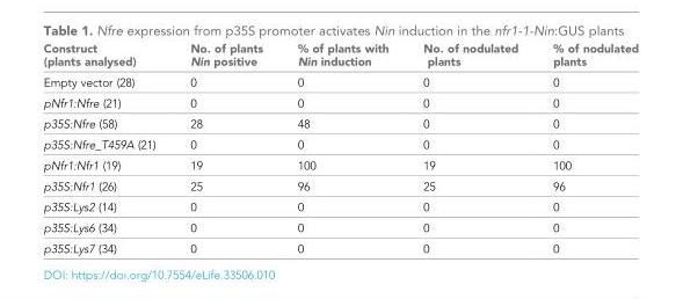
<table><thead><tr><td>Construct (plants analysed)</td><td>No. of plants Nin positive</td><td>% of plants with Nin induction</td><td>No. of nodulated plants</td><td>% of nodulated plants</td></tr></thead><tbody><tr><td>Empty vector (28)</td><td>0</td><td>0</td><td>0</td><td>0</td></tr><tr><td>pNfr1:Nfre (21)</td><td>0</td><td>0</td><td>0</td><td>0</td></tr><tr><td>p35S:Nfre (58)</td><td>28</td><td>48</td><td>0</td><td>0</td></tr><tr><td>p35S:Nfre_T459A (21)</td><td>0</td><td>0</td><td>0</td><td>0</td></tr><tr><td>pNfr1:Nfr1 (19)</td><td>19</td><td>100</td><td>19</td><td>100</td></tr><tr><td>p35S:Nfr1 (26)</td><td>25</td><td>96</td><td>25</td><td>96</td></tr><tr><td>p35S:Lys2 (14)</td><td>0</td><td>0</td><td>0</td><td>0</td></tr><tr><td>p35S:Lys6 (34)</td><td>0</td><td>0</td><td>0</td><td>0</td></tr><tr><td>p35S:Lys7 (34)</td><td>0</td><td>0</td><td>0</td><td>0</td></tr></tbody></table>